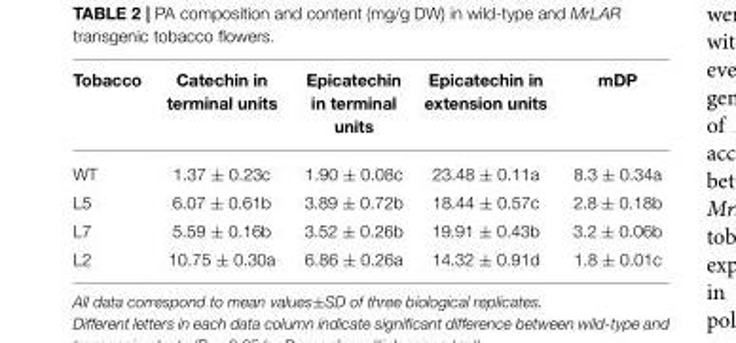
<table><thead><tr><td>Tobacco</td><td>Catechin in terminal units</td><td>Epicatechin in terminal units</td><td>Epicatechin in extension units</td><td>mDP</td></tr></thead><tbody><tr><td>WT</td><td>1.37 ± 0.23c</td><td>1.90 ± 0.08c</td><td>23.48 ± 0.11a</td><td>8.3 ± 0.34a</td></tr><tr><td>L5</td><td>6.07 ± 0.61b</td><td>3.89 ± 0.72b</td><td>18.44 ± 0.57c</td><td>2.8 ± 0.18b</td></tr><tr><td>L7</td><td>5.59 ± 0.16b</td><td>3.52 ± 0.26b</td><td>19.91 ± 0.43b</td><td>3.2 ± 0.06b</td></tr><tr><td>L2</td><td>10.75 ± 0.30a</td><td>6.86 ± 0.26a</td><td>14.32 ± 0.91d</td><td>1.8 ± 0.01c</td></tr></tbody></table>